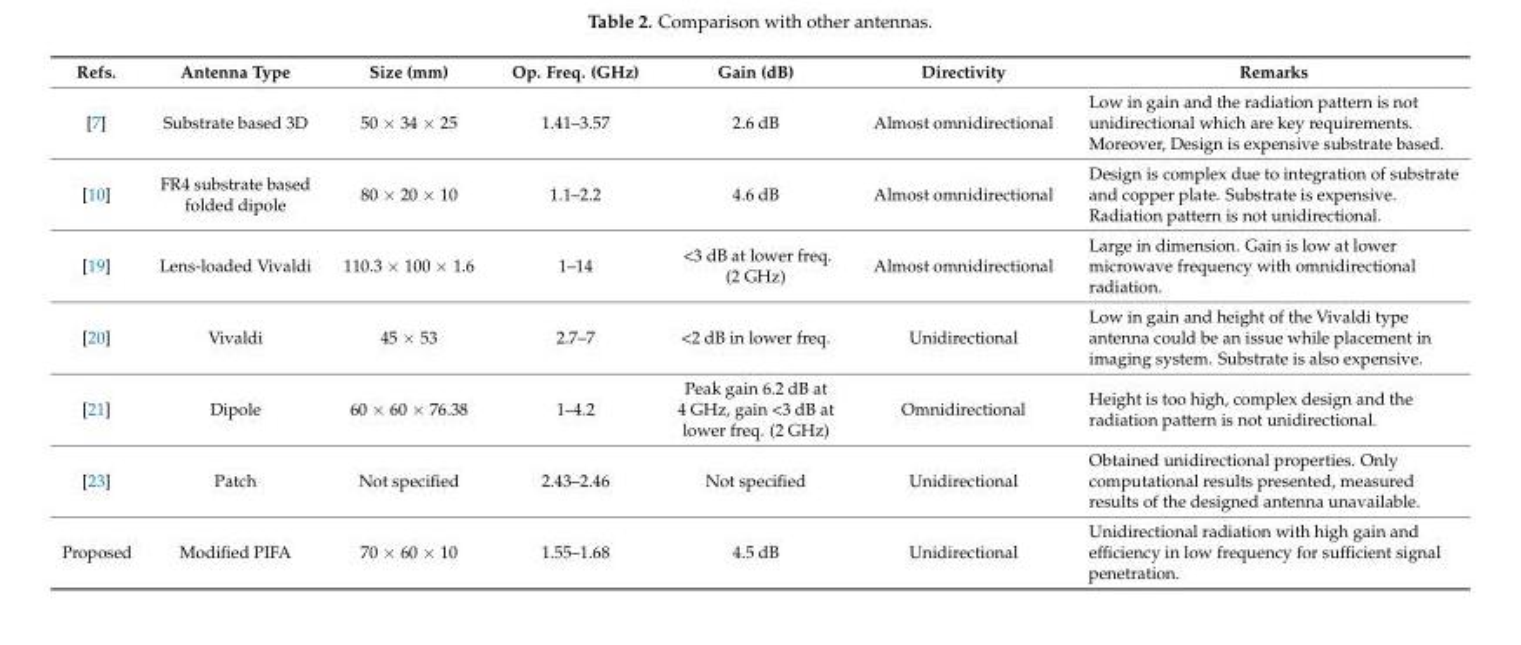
<table><thead><tr><td>Refs.</td><td>Antenna Type</td><td>Size (mm)</td><td>Op. Freq. (GHz)</td><td>Gain (dB)</td><td>Directivity</td><td>Remarks</td></tr></thead><tbody><tr><td>[7]</td><td>Substrate based 3D</td><td>50 × 34 × 25</td><td>1.41–3.57</td><td>2.6 dB</td><td>Almost omnidirectional</td><td>Low in gain and the radiation pattern is not unidirectional which are key requirements. Moreover, Design is expensive substrate based.</td></tr><tr><td>[10]</td><td>FR4 substrate based folded dipole</td><td>80 × 20 × 10</td><td>1.1–2.2</td><td>4.6 dB</td><td>Almost omnidirectional</td><td>Design is complex due to integration of substrate and copper plate. Substrate is expensive. Radiation pattern is not unidirectional.</td></tr><tr><td>[19]</td><td>Lens-loaded Vivaldi</td><td>110.3 × 100 × 1.6</td><td>1–14</td><td>&lt;3 dB at lower freq. (2 GHz)</td><td>Almost omnidirectional</td><td>Large in dimension. Gain is low at lower microwave frequency with omnidirectional radiation.</td></tr><tr><td>[20]</td><td>Vivaldi</td><td>45 × 53</td><td>2.7–7</td><td>&lt;2 dB in lower freq.</td><td>Unidirectional</td><td>Low in gain and height of the Vivaldi type antenna could be an issue while placement in imaging system. Substrate is also expensive.</td></tr><tr><td>[21]</td><td>Dipole</td><td>60 × 60 × 76.38</td><td>1–4.2</td><td>Peak gain 6.2 dB at 4 GHz, gain &lt;3 dB at lower freq. (2 GHz)</td><td>Omnidirectional</td><td>Height is too high, complex design and the radiation pattern is not unidirectional.</td></tr><tr><td>[23]</td><td>Patch</td><td>Not specified</td><td>2.43–2.46</td><td>Not specified</td><td>Unidirectional</td><td>Obtained unidirectional properties. Only computational results presented, measured results of the designed antenna unavailable.</td></tr><tr><td>Proposed</td><td>Modified PIFA</td><td>70 × 60 × 10</td><td>1.55–1.68</td><td>4.5 dB</td><td>Unidirectional</td><td>Unidirectional radiation with high gain and efficiency in low frequency for sufficient signal penetration.</td></tr></tbody></table>